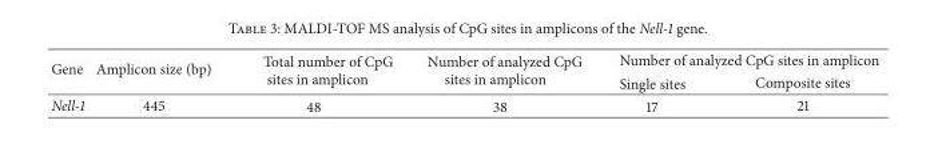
<table><thead><tr><td rowspan="2">Gene</td><td rowspan="2">Amplicon size (bp)</td><td rowspan="2">Total number of CpG sites in amplicon</td><td rowspan="2">Number of analyzed CpG sites in amplicon</td><td colspan="2">Number of analyzed CpG sites in amplicon</td></tr><tr><td>Single sites</td><td>Composite sites</td></tr></thead><tbody><tr><td>Nell-1</td><td>445</td><td>48</td><td>38</td><td>17</td><td>21</td></tr></tbody></table>